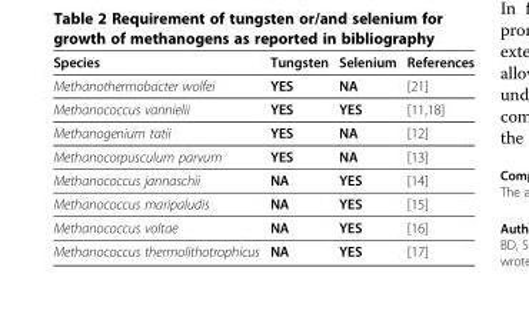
<table><thead><tr><td>Species</td><td>Tungsten</td><td>Selenium</td><td>References</td></tr></thead><tbody><tr><td>Methanothermobacter wolfei</td><td>YES</td><td>NA</td><td>[21]</td></tr><tr><td>Methanococcus vannielii</td><td>YES</td><td>YES</td><td>[11,18]</td></tr><tr><td>Methanogenium tatii</td><td>YES</td><td>NA</td><td>[12]</td></tr><tr><td>Methanocorpusculum parvum</td><td>YES</td><td>NA</td><td>[13]</td></tr><tr><td>Methanococcus jannaschii</td><td>NA</td><td>YES</td><td>[14]</td></tr><tr><td>Methanococcus maripaludis</td><td>NA</td><td>YES</td><td>[15]</td></tr><tr><td>Methanococcus voltae</td><td>NA</td><td>YES</td><td>[16]</td></tr><tr><td>Methanococcus thermolithotrophicus</td><td>NA</td><td>YES</td><td>[17]</td></tr></tbody></table>